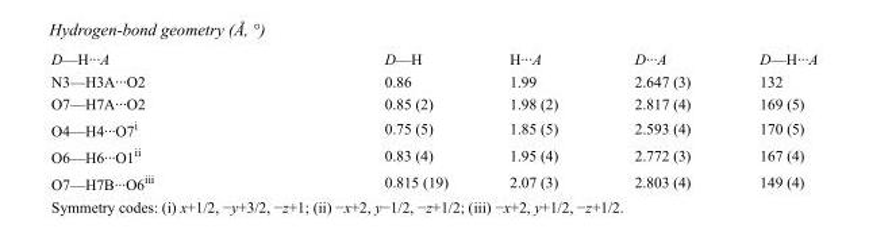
<table><tbody><tr><td>D—H···A</td><td>D—H</td><td>H···A</td><td>D···A</td><td>D—H···A</td></tr><tr><td>N3—H3A···O2</td><td>0.86</td><td>1.99</td><td>2.647 (3)</td><td>132</td></tr><tr><td>O7—H7A···O2</td><td>0.85 (2)</td><td>1.98 (2)</td><td>2.817 (4)</td><td>169 (5)</td></tr><tr><td>O4—H4···O7<sup>i</sup></td><td>0.75 (5)</td><td>1.85 (5)</td><td>2.593 (4)</td><td>170 (5)</td></tr><tr><td>O6—H6···O1<sup>ii</sup></td><td>0.83 (4)</td><td>1.95 (4)</td><td>2.772 (3)</td><td>167 (4)</td></tr><tr><td>O7—H7B···O6<sup>iii</sup></td><td>0.815 (19)</td><td>2.07 (3)</td><td>2.803 (4)</td><td>149 (4)</td></tr></tbody></table>